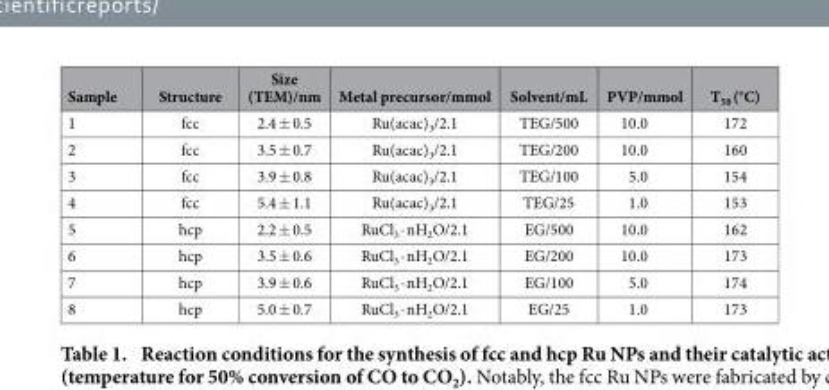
<table><thead><tr><td>Sample</td><td>Structure</td><td>Size (TEM)/nm</td><td>Metal precursor/mmol</td><td>Solvent/mL</td><td>PVP/mmol</td><td>T<sub>50</sub> (°C)</td></tr></thead><tbody><tr><td>1</td><td>fcc</td><td>2.4 ± 0.5</td><td>Ru(acac)<sub>3</sub>/2.1</td><td>TEG/500</td><td>10.0</td><td>172</td></tr><tr><td>2</td><td>fcc</td><td>3.5 ± 0.7</td><td>Ru(acac)<sub>3</sub>/2.1</td><td>TEG/200</td><td>10.0</td><td>160</td></tr><tr><td>3</td><td>fcc</td><td>3.9 ± 0.8</td><td>Ru(acac)<sub>3</sub>/2.1</td><td>TEG/100</td><td>5.0</td><td>154</td></tr><tr><td>4</td><td>fcc</td><td>5.4 ± 1.1</td><td>Ru(acac)<sub>3</sub>/2.1</td><td>TEG/25</td><td>1.0</td><td>153</td></tr><tr><td>5</td><td>hcp</td><td>2.2 ± 0.5</td><td>RuCl<sub>3</sub> · nH<sub>2</sub>O/2.1</td><td>EG/500</td><td>10.0</td><td>162</td></tr><tr><td>6</td><td>hcp</td><td>3.5 ± 0.6</td><td>RuCl<sub>3</sub> · nH<sub>2</sub>O/2.1</td><td>EG/200</td><td>10.0</td><td>173</td></tr><tr><td>7</td><td>hcp</td><td>3.9 ± 0.6</td><td>RuCl<sub>3</sub> · nH<sub>2</sub>O/2.1</td><td>EG/100</td><td>5.0</td><td>174</td></tr><tr><td>8</td><td>hcp</td><td>5.0 ± 0.7</td><td>RuCl<sub>3</sub> · nH<sub>2</sub>O/2.1</td><td>EG/25</td><td>1.0</td><td>173</td></tr></tbody></table>